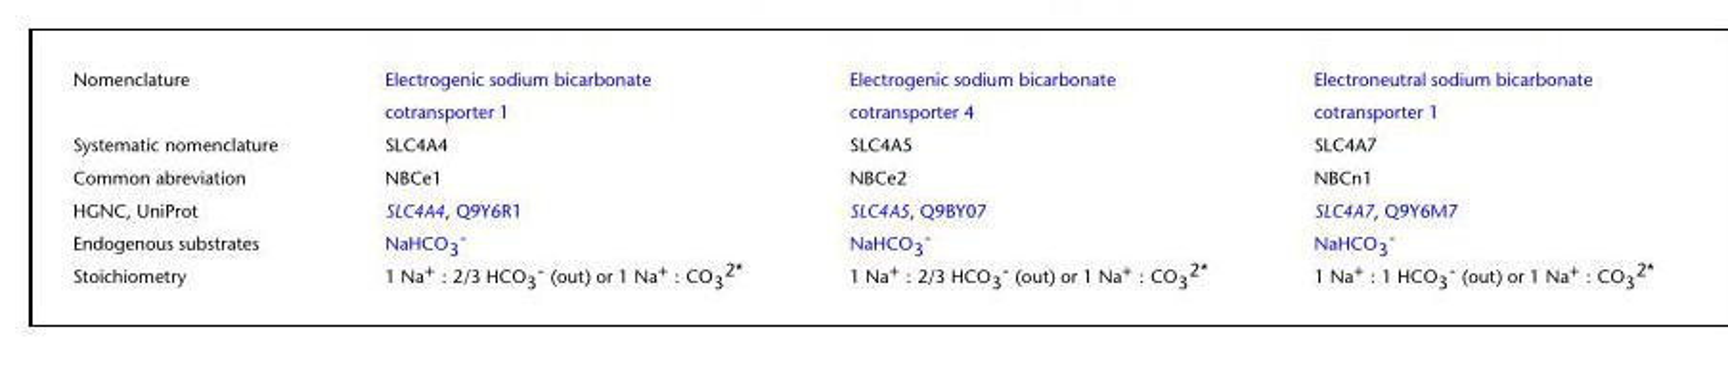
<table><tbody><tr><td rowspan="2">Nomenclature</td><td>Electrogenic sodium bicarbonate</td><td>Electrogenic sodium bicarbonate</td><td>Electroneutral sodium bicarbonate</td></tr><tr><td>cotransporter 1</td><td>cotransporter 4</td><td>cotransporter 1</td></tr><tr><td>Systematic nomenclature</td><td>SLC4A4</td><td>SLC4A5</td><td>SLC4A7</td></tr><tr><td>Common abreviation</td><td>NBCe1</td><td>NBCe2</td><td>NBCn1</td></tr><tr><td>HGNC, UniProt</td><td>SLC4A4, Q9Y6R1</td><td>SLC4A5, Q9BY07</td><td>SLC4A7, Q9Y6M7</td></tr><tr><td>Endogenous substrates</td><td>NaHCO<sub>3</sub><sup>-</sup></td><td>NaHCO<sub>3</sub><sup>-</sup></td><td>NaHCO<sub>3</sub><sup>-</sup></td></tr><tr><td>Stoichiometry</td><td>1 Na<sup>+</sup> : 2/3 HCO<sub>3</sub><sup>-</sup> (out) or 1 Na<sup>+</sup> : CO<sub>3</sub><sup>2*</sup></td><td>1 Na<sup>+</sup> : 2/3 HCO<sub>3</sub><sup>-</sup> (out) or 1 Na<sup>+</sup> : CO<sub>3</sub><sup>2*</sup></td><td>1 Na<sup>+</sup> : 1 HCO<sub>3</sub><sup>-</sup> (out) or 1 Na<sup>+</sup> : CO<sub>3</sub><sup>2*</sup></td></tr></tbody></table>